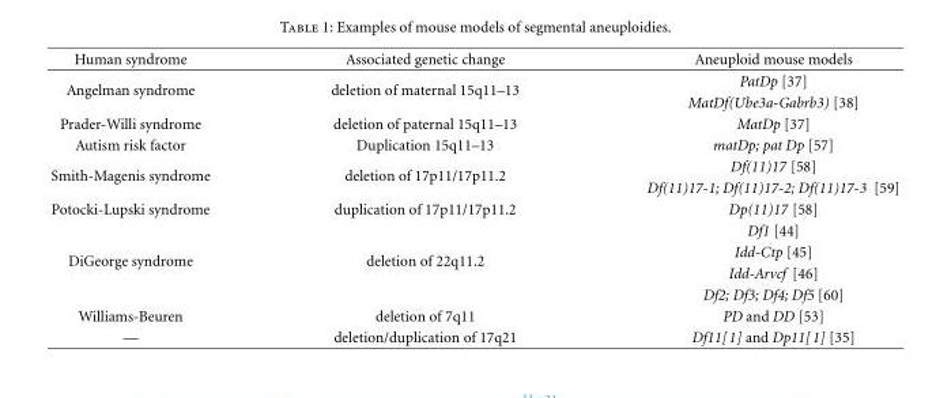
<table><thead><tr><td>Human syndrome</td><td>Associated genetic change</td><td>Aneuploid mouse models</td></tr></thead><tbody><tr><td rowspan="2">Angelman syndrome</td><td rowspan="2">deletion of maternal 15q11–13</td><td>PatDp [37]</td></tr><tr><td>MatDf(Ube3a-Gabrb3) [38]</td></tr><tr><td>Prader-Willi syndrome</td><td>deletion of paternal 15q11–13</td><td>MatDp [37]</td></tr><tr><td>Autism risk factor</td><td>Duplication 15q11–13</td><td>matDp; pat Dp [57]</td></tr><tr><td rowspan="2">Smith-Magenis syndrome</td><td rowspan="2">deletion of 17p11/17p11.2</td><td>Df(11)17 [58]</td></tr><tr><td>Df(11)17-1; Df(11)17-2; Df(11)17-3 [59]</td></tr><tr><td>Potocki-Lupski syndrome</td><td>duplication of 17p11/17p11.2</td><td>Dp(11)17 [58]</td></tr><tr><td rowspan="4">DiGeorge syndrome</td><td rowspan="4">deletion of 22q11.2</td><td>Df1 [44]</td></tr><tr><td>Idd-Ctp [45]</td></tr><tr><td>Idd-Arvcf [46]</td></tr><tr><td>Df2; Df3; Df4; Df5 [60]</td></tr><tr><td>Williams-Beuren</td><td>deletion of 7q11</td><td>PD and DD [53]</td></tr><tr><td>—</td><td>deletion/duplication of 17q21</td><td>Df11[1] and Dp11[1] [35]</td></tr></tbody></table>